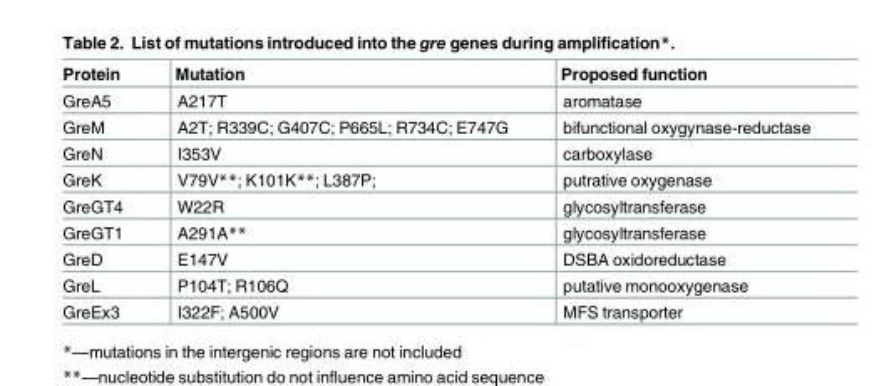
<table><thead><tr><td>Protein</td><td>Mutation</td><td>Proposed function</td></tr></thead><tbody><tr><td>GreA5</td><td>A217T</td><td>aromatase</td></tr><tr><td>GreM</td><td>A2T; R339C; G407C; P665L; R734C; E747G</td><td>bifunctional oxygynase-reductase</td></tr><tr><td>GreN</td><td>I353V</td><td>carboxylase</td></tr><tr><td>GreK</td><td>V79V**; K101K**; L387P;</td><td>putrative oxygenase</td></tr><tr><td>GreGT4</td><td>W22R</td><td>glycosyltransferase</td></tr><tr><td>GreGT1</td><td>A291A**</td><td>glycosyltransferase</td></tr><tr><td>GreD</td><td>E147V</td><td>DSBA oxidoreductase</td></tr><tr><td>GreL</td><td>P104T; R106Q</td><td>putative monooxygenase</td></tr><tr><td>GreEx3</td><td>I322F; A500V</td><td>MFS transporter</td></tr></tbody></table>